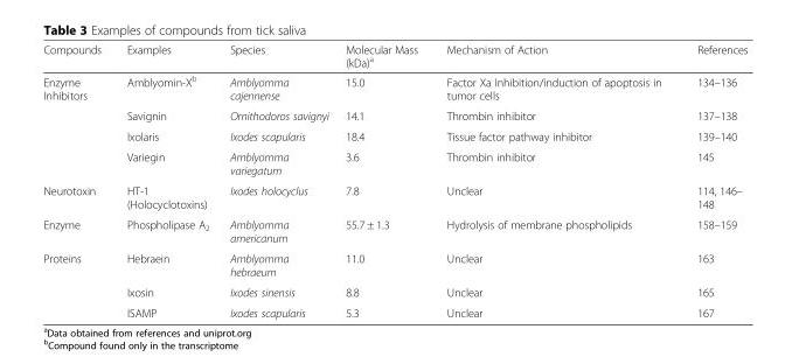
<table><thead><tr><td>Compounds</td><td>Examples</td><td>Species</td><td>Molecular Mass (kDa)<sup>a</sup></td><td>Mechanism of Action</td><td>References</td></tr></thead><tbody><tr><td rowspan="4">Enzyme Inhibitors</td><td>Amblyomin-X<sup>b</sup></td><td>Amblyomma cajennense</td><td>15.0</td><td>Factor Xa Inhibition/induction of apoptosis in tumor cells</td><td>134–136</td></tr><tr><td>Savignin</td><td>Ornithodoros savignyi</td><td>14.1</td><td>Thrombin inhibitor</td><td>137–138</td></tr><tr><td>Ixolaris</td><td>Ixodes scapularis</td><td>18.4</td><td>Tissue factor pathway inhibitor</td><td>139–140</td></tr><tr><td>Variegin</td><td>Amblyomma variegatum</td><td>3.6</td><td>Thrombin inhibitor</td><td>145</td></tr><tr><td>Neurotoxin</td><td>HT-1 (Holocyclotoxins)</td><td>Ixodes holocyclus</td><td>7.8</td><td>Unclear</td><td>114, 146– 148</td></tr><tr><td>Enzyme</td><td>Phospholipase A<sub>2</sub></td><td>Amblyomma americanum</td><td>55.7 ± 1.3</td><td>Hydrolysis of membrane phospholipids</td><td>158–159</td></tr><tr><td rowspan="3">Proteins</td><td>Hebraein</td><td>Amblyomma hebraeum</td><td>11.0</td><td>Unclear</td><td>163</td></tr><tr><td>Ixosin</td><td>Ixodes sinensis</td><td>8.8</td><td>Unclear</td><td>165</td></tr><tr><td>ISAMP</td><td>Ixodes scapularis</td><td>5.3</td><td>Unclear</td><td>167</td></tr></tbody></table>